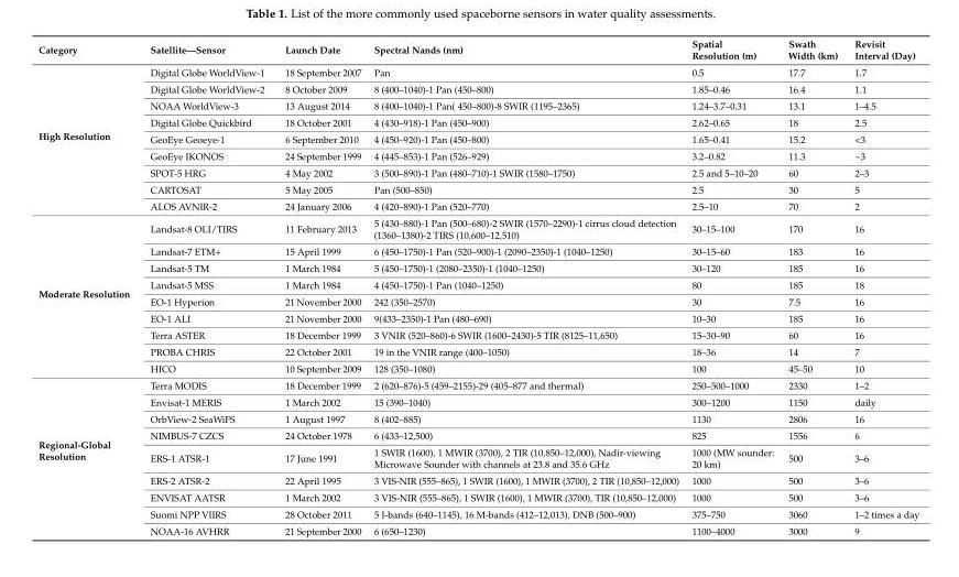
<table><thead><tr><td>Category</td><td>Satellite—Sensor</td><td>Launch Date</td><td>Spectral Nands (nm)</td><td>Spatial Resolution (m)</td><td>Swath Width (km)</td><td>Revisit Interval (Day)</td></tr></thead><tbody><tr><td rowspan="9">High Resolution</td><td>Digital Globe WorldView-1</td><td>18 September 2007</td><td>Pan</td><td>0.5</td><td>17.7</td><td>1.7</td></tr><tr><td>Digital Globe WorldView-2</td><td>8 October 2009</td><td>8 (400–1040)-1 Pan (450–800)</td><td>1.85–0.46</td><td>16.4</td><td>1.1</td></tr><tr><td>NOAA WorldView-3</td><td>13 August 2014</td><td>8 (400–1040)-1 Pan( 450–800)-8 SWIR (1195–2365)</td><td>1.24–3.7–0.31</td><td>13.1</td><td>1–4.5</td></tr><tr><td>Digital Globe Quickbird</td><td>18 October 2001</td><td>4 (430–918)-1 Pan (450–900)</td><td>2.62–0.65</td><td>18</td><td>2.5</td></tr><tr><td>GeoEye Geoeye-1</td><td>6 September 2010</td><td>4 (450–920)-1 Pan (450–800)</td><td>1.65–0.41</td><td>15.2</td><td>&lt;3</td></tr><tr><td>GeoEye IKONOS</td><td>24 September 1999</td><td>4 (445–853)-1 Pan (526–929)</td><td>3.2–0.82</td><td>11.3</td><td>~3</td></tr><tr><td>SPOT-5 HRG</td><td>4 May 2002</td><td>3 (500–890)-1 Pan (480–710)-1 SWIR (1580–1750)</td><td>2.5 and 5–10–20</td><td>60</td><td>2–3</td></tr><tr><td>CARTOSAT</td><td>5 May 2005</td><td>Pan (500–850)</td><td>2.5</td><td>30</td><td>5</td></tr><tr><td>ALOS AVNIR-2</td><td>24 January 2006</td><td>4 (420–890)-1 Pan (520–770)</td><td>2.5–10</td><td>70</td><td>2</td></tr><tr><td rowspan="9">Moderate Resolution</td><td>Landsat-8 OLI/TIRS</td><td>11 February 2013</td><td>5 (430–880)-1 Pan (500–680)-2 SWIR (1570–2290)-1 cirrus cloud detection (1360–1380)-2 TIRS (10,600–12,510)</td><td>30–15–100</td><td>170</td><td>16</td></tr><tr><td>Landsat-7 ETM+</td><td>15 April 1999</td><td>6 (450–1750)-1 Pan (520–900)-1 (2090–2350)-1 (1040–1250)</td><td>30–15–60</td><td>183</td><td>16</td></tr><tr><td>Landsat-5 TM</td><td>1 March 1984</td><td>5 (450–1750)-1 (2080–2350)-1 (1040–1250)</td><td>30–120</td><td>185</td><td>16</td></tr><tr><td>Landsat-5 MSS</td><td>1 March 1984</td><td>4 (450–1750)-1 Pan (1040–1250)</td><td>80</td><td>185</td><td>18</td></tr><tr><td>EO-1 Hyperion</td><td>21 November 2000</td><td>242 (350–2570)</td><td>30</td><td>7.5</td><td>16</td></tr><tr><td>EO-1 ALI</td><td>21 November 2000</td><td>9(433–2350)-1 Pan (480–690)</td><td>10–30</td><td>185</td><td>16</td></tr><tr><td>Terra ASTER</td><td>18 December 1999</td><td>3 VNIR (520–860)-6 SWIR (1600–2430)-5 TIR (8125–11,650)</td><td>15–30–90</td><td>60</td><td>16</td></tr><tr><td>PROBA CHRIS</td><td>22 October 2001</td><td>19 in the VNIR range (400–1050)</td><td>18–36</td><td>14</td><td>7</td></tr><tr><td>HICO</td><td>10 September 2009</td><td>128 (350–1080)</td><td>100</td><td>45–50</td><td>10</td></tr><tr><td rowspan="9">Regional-Global Resolution</td><td>Terra MODIS</td><td>18 December 1999</td><td>2 (620–876)-5 (459–2155)-29 (405–877 and thermal)</td><td>250–500–1000</td><td>2330</td><td>1–2</td></tr><tr><td>Envisat-1 MERIS</td><td>1 March 2002</td><td>15 (390–1040)</td><td>300–1200</td><td>1150</td><td>daily</td></tr><tr><td>OrbView-2 SeaWiFS</td><td>1 August 1997</td><td>8 (402–885)</td><td>1130</td><td>2806</td><td>16</td></tr><tr><td>NIMBUS-7 CZCS</td><td>24 October 1978</td><td>6 (433–12,500)</td><td>825</td><td>1556</td><td>6</td></tr><tr><td>ERS-1 ATSR-1</td><td>17 June 1991</td><td>1 SWIR (1600), 1 MWIR (3700), 2 TIR (10,850–12,000), Nadir-viewing Microwave Sounder with channels at 23.8 and 35.6 GHz</td><td>1000 (MW sounder: 20 km)</td><td>500</td><td>3–6</td></tr><tr><td>ERS-2 ATSR-2</td><td>22 April 1995</td><td>3 VIS-NIR (555–865), 1 SWIR (1600), 1 MWIR (3700), 2 TIR (10,850–12,000)</td><td>1000</td><td>500</td><td>3–6</td></tr><tr><td>ENVISAT AATSR</td><td>1 March 2002</td><td>3 VIS-NIR (555–865), 1 SWIR (1600), 1 MWIR (3700), TIR (10,850–12,000)</td><td>1000</td><td>500</td><td>3–6</td></tr><tr><td>Suomi NPP VIIRS</td><td>28 October 2011</td><td>5 I-bands (640–1145), 16 M-bands (412–12,013), DNB (500–900)</td><td>375–750</td><td>3060</td><td>1–2 times a day</td></tr><tr><td>NOAA-16 AVHRR</td><td>21 September 2000</td><td>6 (650–1230)</td><td>1100–4000</td><td>3000</td><td>9</td></tr></tbody></table>